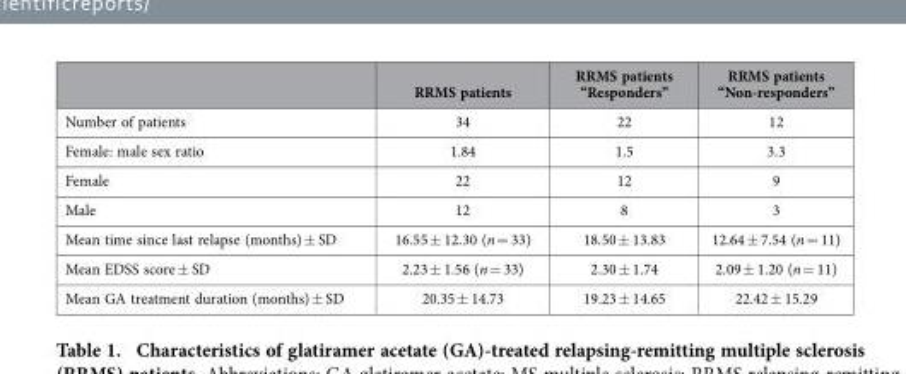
<table><thead><tr><td></td><td>RRMS patients</td><td>RRMS patients “Responders”</td><td>RRMS patients “Non-responders”</td></tr></thead><tbody><tr><td>Number of patients</td><td>34</td><td>22</td><td>12</td></tr><tr><td>Female: male sex ratio</td><td>1.84</td><td>1.5</td><td>3.3</td></tr><tr><td>Female</td><td>22</td><td>12</td><td>9</td></tr><tr><td>Male</td><td>12</td><td>8</td><td>3</td></tr><tr><td>Mean time since last relapse (months) ± SD</td><td>16.55 ± 12.30 (n = 33)</td><td>18.50 ± 13.83</td><td>12.64 ± 7.54 (n = 11)</td></tr><tr><td>Mean EDSS score ± SD</td><td>2.23 ± 1.56 (n = 33)</td><td>2.30 ± 1.74</td><td>2.09 ± 1.20 (n = 11)</td></tr><tr><td>Mean GA treatment duration (months) ± SD</td><td>20.35 ± 14.73</td><td>19.23 ± 14.65</td><td>22.42 ± 15.29</td></tr></tbody></table>